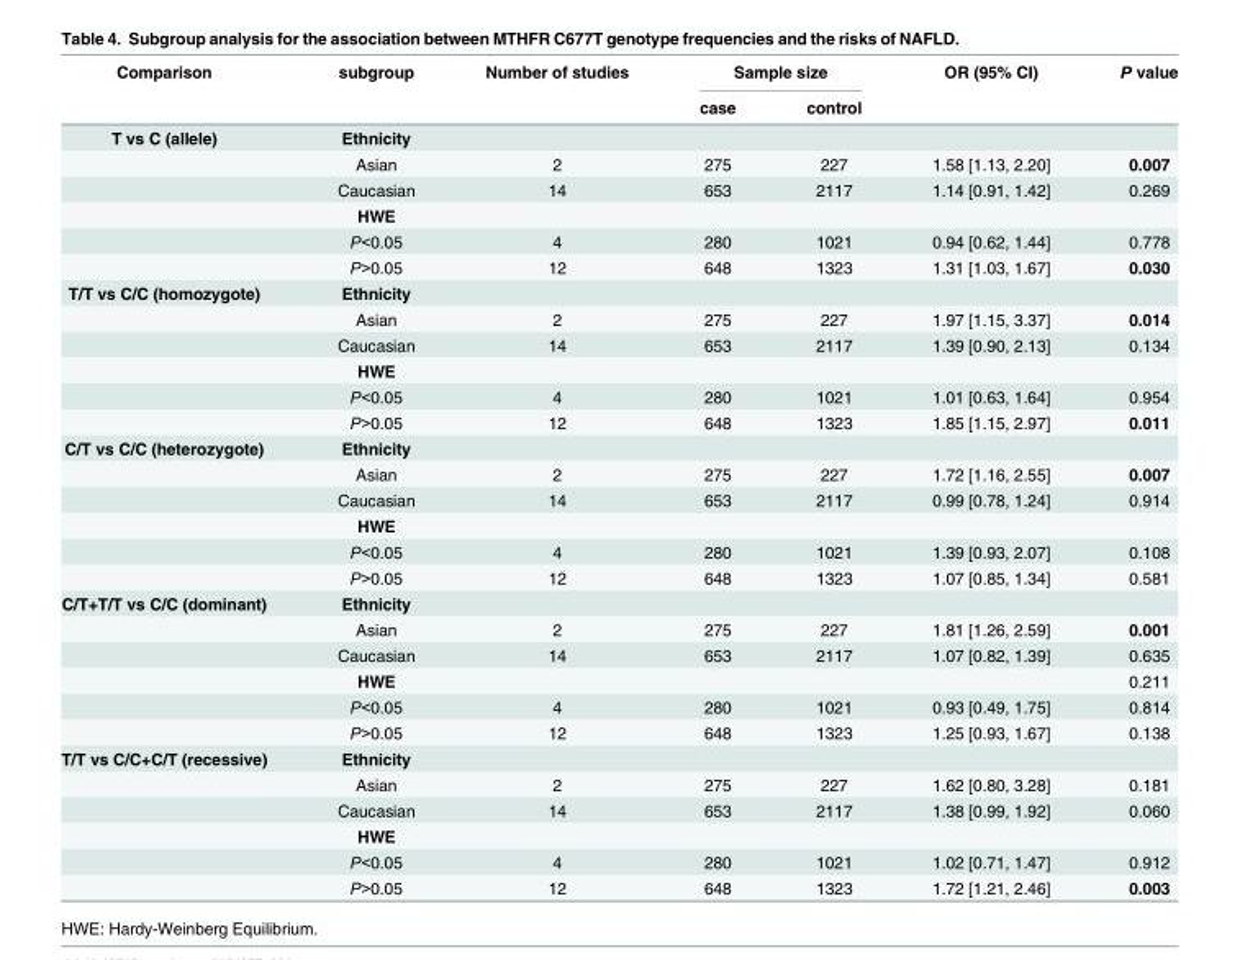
<table><thead><tr><td rowspan="2">Comparison</td><td rowspan="2">subgroup</td><td rowspan="2">Number of studies</td><td colspan="2">Sample size</td><td rowspan="2">OR (95% CI)</td><td rowspan="2">P value</td></tr><tr><td>case</td><td>control</td></tr></thead><tbody><tr><td rowspan="6">T vs C (allele)</td><td>Ethnicity</td><td></td><td></td><td></td><td></td><td></td></tr><tr><td>Asian</td><td>2</td><td>275</td><td>227</td><td>1.58 [1.13, 2.20]</td><td>0.007</td></tr><tr><td>Caucasian</td><td>14</td><td>653</td><td>2117</td><td>1.14 [0.91, 1.42]</td><td>0.269</td></tr><tr><td>HWE</td><td></td><td></td><td></td><td></td><td></td></tr><tr><td>P&lt;0.05</td><td>4</td><td>280</td><td>1021</td><td>0.94 [0.62, 1.44]</td><td>0.778</td></tr><tr><td>P&gt;0.05</td><td>12</td><td>648</td><td>1323</td><td>1.31 [1.03, 1.67]</td><td>0.030</td></tr><tr><td rowspan="6">T/T vs C/C (homozygote)</td><td>Ethnicity</td><td></td><td></td><td></td><td></td><td></td></tr><tr><td>Asian</td><td>2</td><td>275</td><td>227</td><td>1.97 [1.15, 3.37]</td><td>0.014</td></tr><tr><td>Caucasian</td><td>14</td><td>653</td><td>2117</td><td>1.39 [0.90, 2.13]</td><td>0.134</td></tr><tr><td>HWE</td><td></td><td></td><td></td><td></td><td></td></tr><tr><td>P&lt;0.05</td><td>4</td><td>280</td><td>1021</td><td>1.01 [0.63, 1.64]</td><td>0.954</td></tr><tr><td>P&gt;0.05</td><td>12</td><td>648</td><td>1323</td><td>1.85 [1.15, 2.97]</td><td>0.011</td></tr><tr><td rowspan="6">C/T vs C/C (heterozygote)</td><td>Ethnicity</td><td></td><td></td><td></td><td></td><td></td></tr><tr><td>Asian</td><td>2</td><td>275</td><td>227</td><td>1.72 [1.16, 2.55]</td><td>0.007</td></tr><tr><td>Caucasian</td><td>14</td><td>653</td><td>2117</td><td>0.99 [0.78, 1.24]</td><td>0.914</td></tr><tr><td>HWE</td><td></td><td></td><td></td><td></td><td></td></tr><tr><td>P&lt;0.05</td><td>4</td><td>280</td><td>1021</td><td>1.39 [0.93, 2.07]</td><td>0.108</td></tr><tr><td>P&gt;0.05</td><td>12</td><td>648</td><td>1323</td><td>1.07 [0.85, 1.34]</td><td>0.581</td></tr><tr><td rowspan="6">C/T+T/T vs C/C (dominant)</td><td>Ethnicity</td><td></td><td></td><td></td><td></td><td></td></tr><tr><td>Asian</td><td>2</td><td>275</td><td>227</td><td>1.81 [1.26, 2.59]</td><td>0.001</td></tr><tr><td>Caucasian</td><td>14</td><td>653</td><td>2117</td><td>1.07 [0.82, 1.39]</td><td>0.635</td></tr><tr><td>HWE</td><td></td><td></td><td></td><td></td><td>0.211</td></tr><tr><td>P&lt;0.05</td><td>4</td><td>280</td><td>1021</td><td>0.93 [0.49, 1.75]</td><td>0.814</td></tr><tr><td>P&gt;0.05</td><td>12</td><td>648</td><td>1323</td><td>1.25 [0.93, 1.67]</td><td>0.138</td></tr><tr><td rowspan="6">T/T vs C/C+C/T (recessive)</td><td>Ethnicity</td><td></td><td></td><td></td><td></td><td></td></tr><tr><td>Asian</td><td>2</td><td>275</td><td>227</td><td>1.62 [0.80, 3.28]</td><td>0.181</td></tr><tr><td>Caucasian</td><td>14</td><td>653</td><td>2117</td><td>1.38 [0.99, 1.92]</td><td>0.060</td></tr><tr><td>HWE</td><td></td><td></td><td></td><td></td><td></td></tr><tr><td>P&lt;0.05</td><td>4</td><td>280</td><td>1021</td><td>1.02 [0.71, 1.47]</td><td>0.912</td></tr><tr><td>P&gt;0.05</td><td>12</td><td>648</td><td>1323</td><td>1.72 [1.21, 2.46]</td><td>0.003</td></tr></tbody></table>